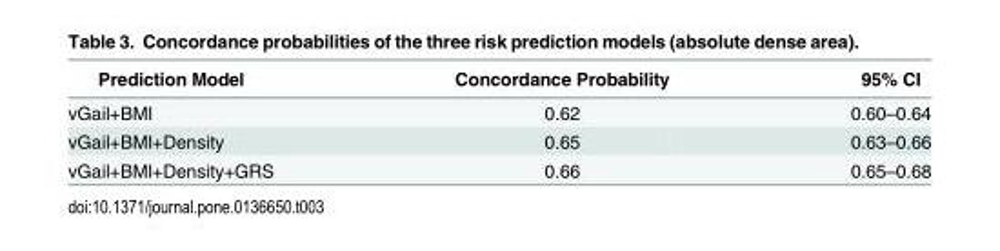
<table><thead><tr><td>Prediction Model</td><td>Concordance Probability</td><td>95% CI</td></tr></thead><tbody><tr><td>vGail+BMI</td><td>0.62</td><td>0.60–0.64</td></tr><tr><td>vGail+BMI+Density</td><td>0.65</td><td>0.63–0.66</td></tr><tr><td>vGail+BMI+Density+GRS</td><td>0.66</td><td>0.65–0.68</td></tr></tbody></table>